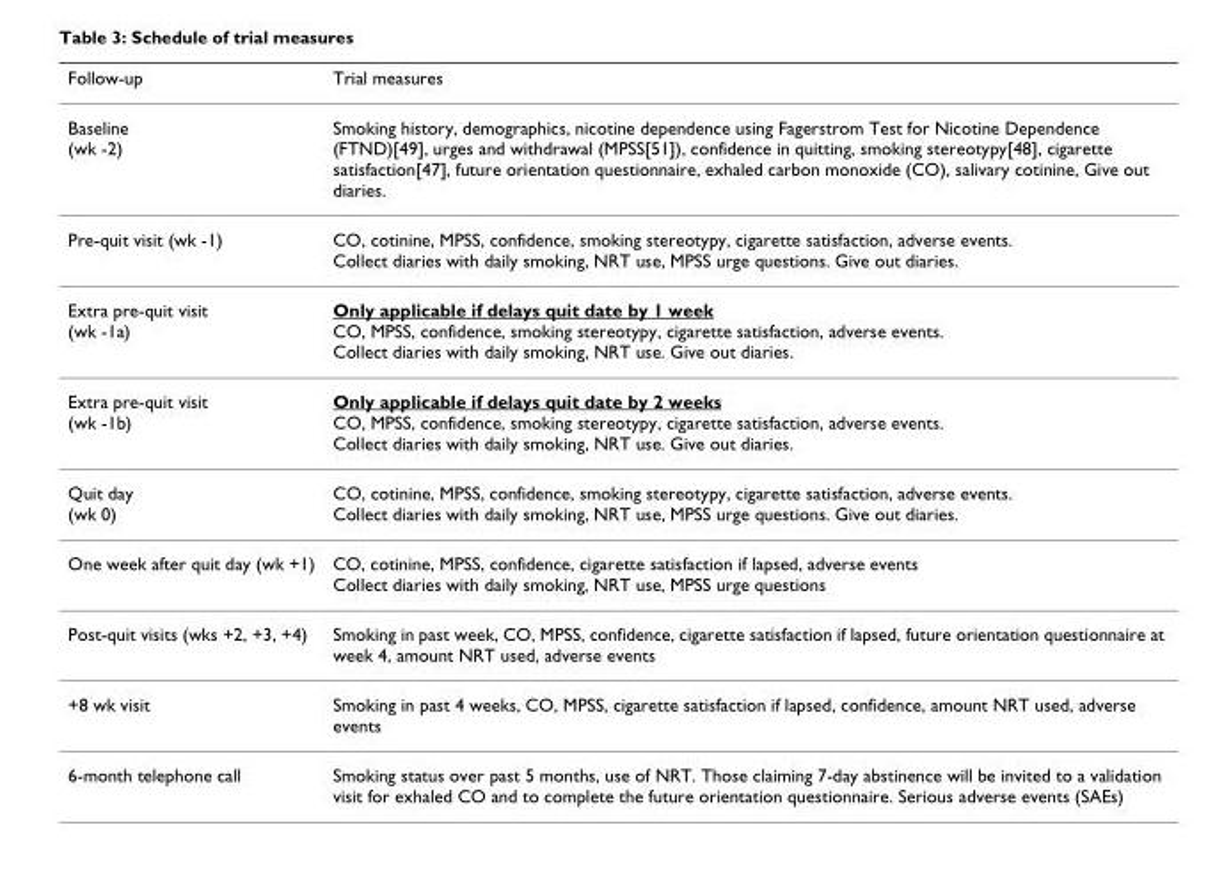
<table><thead><tr><td>Follow-up</td><td>Trial measures</td></tr></thead><tbody><tr><td>Baseline (wk -2)</td><td>Smoking history, demographics, nicotine dependence using Fagerstrom Test for Nicotine Dependence (FTND)[49], urges and withdrawal (MPSS[51]), confidence in quitting, smoking stereotypy[48], cigarette satisfaction[47], future orientation questionnaire, exhaled carbon monoxide (CO), salivary cotinine, Give out diaries.</td></tr><tr><td>Pre-quit visit (wk -1)</td><td>CO, cotinine, MPSS, confidence, smoking stereotypy, cigarette satisfaction, adverse events. Collect diaries with daily smoking, NRT use, MPSS urge questions. Give out diaries.</td></tr><tr><td>Extra pre-quit visit (wk -1a)</td><td>Only applicable if delays quit date by 1 week CO, MPSS, confidence, smoking stereotypy, cigarette satisfaction, adverse events. Collect diaries with daily smoking, NRT use. Give out diaries.</td></tr><tr><td>Extra pre-quit visit (wk -1b)</td><td>Only applicable if delays quit date by 2 weeks CO, MPSS, confidence, smoking stereotypy, cigarette satisfaction, adverse events. Collect diaries with daily smoking, NRT use. Give out diaries.</td></tr><tr><td>Quit day (wk 0)</td><td>CO, cotinine, MPSS, confidence, smoking stereotypy, cigarette satisfaction, adverse events. Collect diaries with daily smoking, NRT use, MPSS urge questions. Give out diaries.</td></tr><tr><td>One week after quit day (wk +1)</td><td>CO, cotinine, MPSS, confidence, cigarette satisfaction if lapsed, adverse events Collect diaries with daily smoking, NRT use, MPSS urge questions</td></tr><tr><td>Post-quit visits (wks +2, +3, +4)</td><td>Smoking in past week, CO, MPSS, confidence, cigarette satisfaction if lapsed, future orientation questionnaire at week 4, amount NRT used, adverse events</td></tr><tr><td>+8 wk visit</td><td>Smoking in past 4 weeks, CO, MPSS, cigarette satisfaction if lapsed, confidence, amount NRT used, adverse events</td></tr><tr><td>6-month telephone call</td><td>Smoking status over past 5 months, use of NRT. Those claiming 7-day abstinence will be invited to a validation visit for exhaled CO and to complete the future orientation questionnaire. Serious adverse events (SAEs)</td></tr></tbody></table>